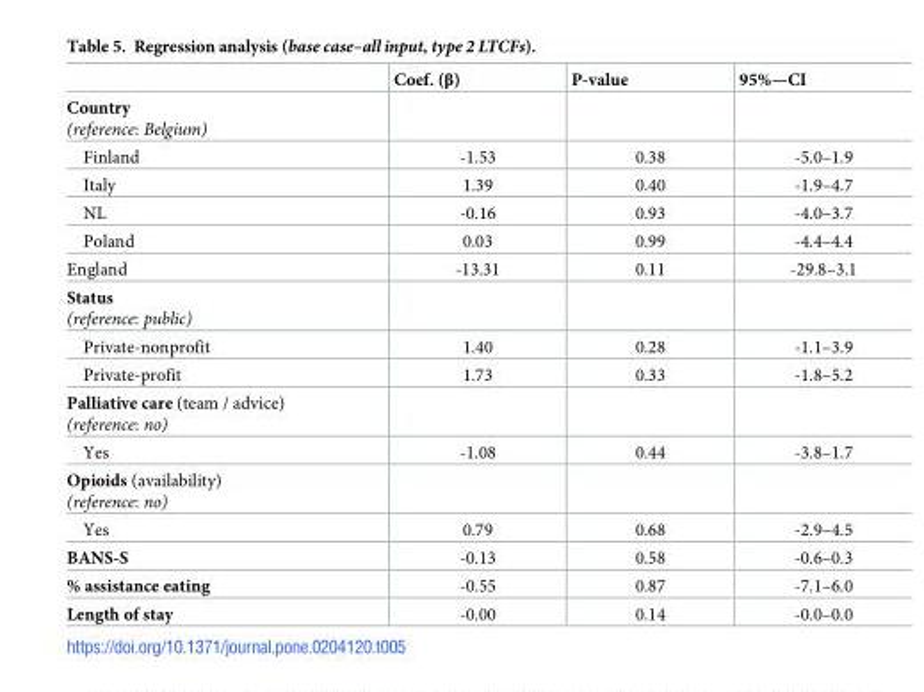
<table><thead><tr><td></td><td>Coef. (β)</td><td>P-value</td><td>95%—CI</td></tr></thead><tbody><tr><td colspan="4">Country (reference: Belgium)</td></tr><tr><td>Finland</td><td>-1.53</td><td>0.38</td><td>-5.0–1.9</td></tr><tr><td>Italy</td><td>1.39</td><td>0.40</td><td>-1.9–4.7</td></tr><tr><td>NL</td><td>-0.16</td><td>0.93</td><td>-4.0–3.7</td></tr><tr><td>Poland</td><td>0.03</td><td>0.99</td><td>-4.4–4.4</td></tr><tr><td>England</td><td>-13.31</td><td>0.11</td><td>-29.8–3.1</td></tr><tr><td colspan="4">Status (reference: public)</td></tr><tr><td>Private-nonprofit</td><td>1.40</td><td>0.28</td><td>-1.1–3.9</td></tr><tr><td>Private-profit</td><td>1.73</td><td>0.33</td><td>-1.8–5.2</td></tr><tr><td colspan="4">Palliative care (team / advice) (reference: no)</td></tr><tr><td>Yes</td><td>-1.08</td><td>0.44</td><td>-3.8–1.7</td></tr><tr><td colspan="4">Opioids (availability) (reference: no)</td></tr><tr><td>Yes</td><td>0.79</td><td>0.68</td><td>-2.9–4.5</td></tr><tr><td>BANS-S</td><td>-0.13</td><td>0.58</td><td>-0.6–0.3</td></tr><tr><td>% assistance eating</td><td>-0.55</td><td>0.87</td><td>-7.1–6.0</td></tr><tr><td>Length of stay</td><td>-0.00</td><td>0.14</td><td>-0.0–0.0</td></tr></tbody></table>